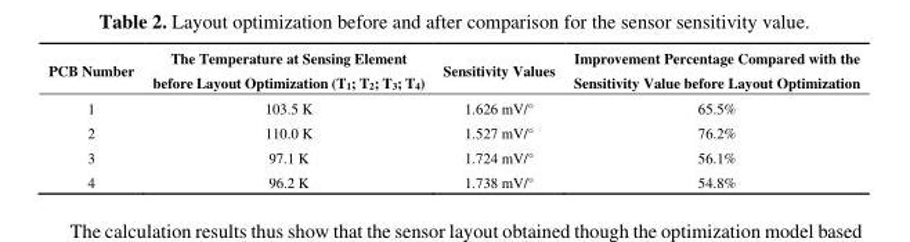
<table><thead><tr><td>PCB Number</td><td>The Temperature at Sensing Element before Layout Optimization (T<sub>1</sub>; T<sub>2</sub>; T<sub>3</sub>; T<sub>4</sub>)</td><td>Sensitivity Values</td><td>Improvement Percentage Compared with the Sensitivity Value before Layout Optimization</td></tr></thead><tbody><tr><td>1</td><td>103.5 K</td><td>1.626 mV/°</td><td>65.5%</td></tr><tr><td>2</td><td>110.0 K</td><td>1.527 mV/°</td><td>76.2%</td></tr><tr><td>3</td><td>97.1 K</td><td>1.724 mV/°</td><td>56.1%</td></tr><tr><td>4</td><td>96.2 K</td><td>1.738 mV/°</td><td>54.8%</td></tr></tbody></table>